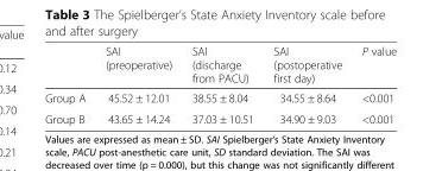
<table><thead><tr><td></td><td>SAI (preoperative)</td><td>SAI (discharge from PACU)</td><td>SAI (postoperative first day)</td><td>P value</td></tr></thead><tbody><tr><td>Group A</td><td>45.52 ± 12.01</td><td>38.55 ± 8.04</td><td>34.55 ± 8.64</td><td>&lt;0.001</td></tr><tr><td>Group B</td><td>43.65 ± 14.24</td><td>37.03 ± 10.51</td><td>34.90 ± 9.03</td><td>&lt;0.001</td></tr></tbody></table>